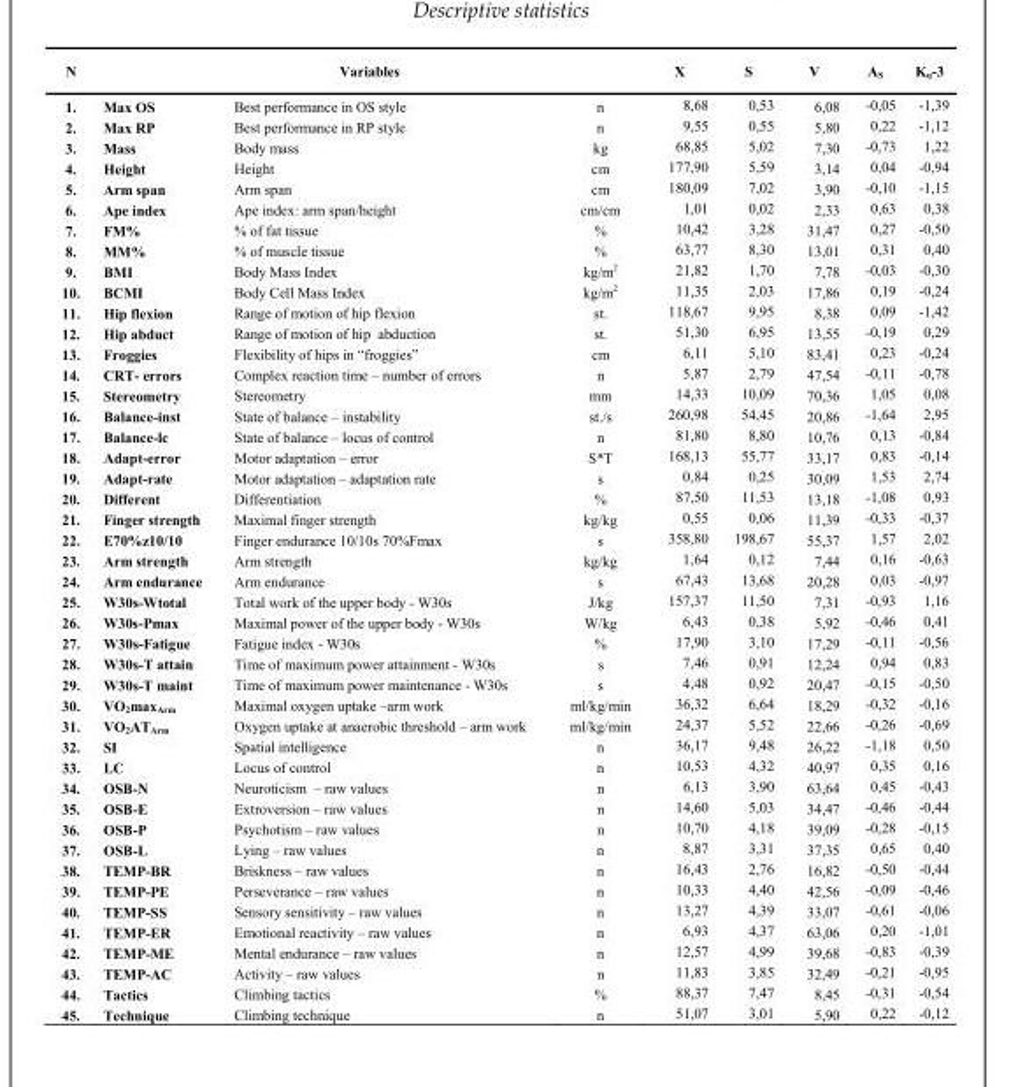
<table><thead><tr><td>N</td><td></td><td>Variables</td><td></td><td>X</td><td>S</td><td>V</td><td>A<sub>S</sub></td><td>K<sub>u</sub>-3</td></tr></thead><tbody><tr><td>1.</td><td>Max OS</td><td>Best performance in OS style</td><td>n</td><td>8,68</td><td>0,53</td><td>6,08</td><td>-0,05</td><td>-1,39</td></tr><tr><td>2.</td><td>Max RP</td><td>Best performance in RP style</td><td>n</td><td>9,55</td><td>0,55</td><td>5,80</td><td>0,22</td><td>-1,12</td></tr><tr><td>3.</td><td>Mass</td><td>Body mass</td><td>kg</td><td>68,85</td><td>5,02</td><td>7,30</td><td>-0,73</td><td>1,22</td></tr><tr><td>4.</td><td>Height</td><td>Height</td><td>cm</td><td>177,90</td><td>5,59</td><td>3,14</td><td>0,04</td><td>-0,94</td></tr><tr><td>5.</td><td>Arm span</td><td>Arm span</td><td>cm</td><td>180,09</td><td>7,02</td><td>3,90</td><td>-0,10</td><td>-1,15</td></tr><tr><td>6.</td><td>Ape index</td><td>Ape index: arm span/height</td><td>cm/cm</td><td>1,01</td><td>0,02</td><td>2,33</td><td>0,63</td><td>0,38</td></tr><tr><td>7.</td><td>FM%</td><td>% of fat tissue</td><td>%</td><td>10,42</td><td>3,28</td><td>31,47</td><td>0,27</td><td>-0,50</td></tr><tr><td>8.</td><td>MM%</td><td>% of muscle tissue</td><td>%</td><td>63,77</td><td>8,30</td><td>13,01</td><td>0,31</td><td>0,40</td></tr><tr><td>9.</td><td>BMI</td><td>Body Mass Index</td><td>kg/m<sup>2</sup></td><td>21,82</td><td>1,70</td><td>7,78</td><td>-0,03</td><td>-0,30</td></tr><tr><td>10.</td><td>BCMI</td><td>Body Cell Mass Index</td><td>kg/m<sup>2</sup></td><td>11,35</td><td>2,03</td><td>17,86</td><td>0,19</td><td>-0,24</td></tr><tr><td>11.</td><td>Hip flexion</td><td>Range of motion of hip flexion</td><td>st.</td><td>118,67</td><td>9,95</td><td>8,38</td><td>0,09</td><td>-1,42</td></tr><tr><td>12.</td><td>Hip abduct</td><td>Range of motion of hip abduction</td><td>st.</td><td>51,30</td><td>6,95</td><td>13,55</td><td>-0,19</td><td>0,29</td></tr><tr><td>13.</td><td>Froggies</td><td>Flexibility of hips in “froggies”</td><td>cm</td><td>6,11</td><td>5,10</td><td>83,41</td><td>0,23</td><td>-0,24</td></tr><tr><td>14.</td><td>CRT- errors</td><td>Complex reaction time – number of errors</td><td>n</td><td>5,87</td><td>2,79</td><td>47,54</td><td>-0,11</td><td>-0,78</td></tr><tr><td>15.</td><td>Stereometry</td><td>Stereometry</td><td>mm</td><td>14,33</td><td>10,09</td><td>70,36</td><td>1,05</td><td>0,08</td></tr><tr><td>16.</td><td>Balance-inst</td><td>State of balance – instability</td><td>st./s</td><td>260,98</td><td>54,45</td><td>20,86</td><td>-1,64</td><td>2,95</td></tr><tr><td>17.</td><td>Balance-lc</td><td>State of balance – locus of control</td><td>n</td><td>81,80</td><td>8,80</td><td>10,76</td><td>0,13</td><td>-0,84</td></tr><tr><td>18.</td><td>Adapt-error</td><td>Motor adaptation – error</td><td>S*T</td><td>168,13</td><td>55,77</td><td>33,17</td><td>0,83</td><td>-0,14</td></tr><tr><td>19.</td><td>Adapt-rate</td><td>Motor adaptation – adaptation rate</td><td>s</td><td>0,84</td><td>0,25</td><td>30,09</td><td>1,53</td><td>2,74</td></tr><tr><td>20.</td><td>Different</td><td>Differentiation</td><td>%</td><td>87,50</td><td>11,53</td><td>13,18</td><td>-1,08</td><td>0,93</td></tr><tr><td>21.</td><td>Finger strength</td><td>Maximal finger strength</td><td>kg/kg</td><td>0,55</td><td>0,06</td><td>11,39</td><td>-0,33</td><td>-0,37</td></tr><tr><td>22.</td><td>E70%z10/10</td><td>Finger endurance 10/10s 70%Fmax</td><td>s</td><td>358,80</td><td>198,67</td><td>55,37</td><td>1,57</td><td>2,02</td></tr><tr><td>23.</td><td>Arm strength</td><td>Arm strength</td><td>kg/kg</td><td>1,64</td><td>0,12</td><td>7,44</td><td>0,16</td><td>-0,63</td></tr><tr><td>24.</td><td>Arm endurance</td><td>Arm endurance</td><td>s</td><td>67,43</td><td>13,68</td><td>20,28</td><td>0,03</td><td>-0,97</td></tr><tr><td>25.</td><td>W30s-Wtotal</td><td>Total work of the upper body - W30s</td><td>J/kg</td><td>157,37</td><td>11,50</td><td>7,31</td><td>-0,93</td><td>1,16</td></tr><tr><td>26.</td><td>W30s-Pmax</td><td>Maximal power of the upper body - W30s</td><td>W/kg</td><td>6,43</td><td>0,38</td><td>5,92</td><td>-0,46</td><td>0,41</td></tr><tr><td>27.</td><td>W30s-Fatigue</td><td>Fatigue index - W30s</td><td>%</td><td>17,90</td><td>3,10</td><td>17,29</td><td>-0,11</td><td>-0,56</td></tr><tr><td>28.</td><td>W30s-T attain</td><td>Time of maximum power attainment - W30s</td><td>s</td><td>7,46</td><td>0,91</td><td>12,24</td><td>0,94</td><td>0,83</td></tr><tr><td>29.</td><td>W30s-T maint</td><td>Time of maximum power maintenance - W30s</td><td>s</td><td>4,48</td><td>0,92</td><td>20,47</td><td>-0,15</td><td>-0,50</td></tr><tr><td>30.</td><td>VO<sub>2</sub>max<sub>Arm</sub></td><td>Maximal oxygen uptake –arm work</td><td>ml/kg/min</td><td>36,32</td><td>6,64</td><td>18,29</td><td>-0,32</td><td>-0,16</td></tr><tr><td>31.</td><td>VO<sub>2</sub>AT<sub>Arm</sub></td><td>Oxygen uptake at anaerobic threshold – arm work</td><td>ml/kg/min</td><td>24,37</td><td>5,52</td><td>22,66</td><td>-0,26</td><td>-0,69</td></tr><tr><td>32.</td><td>SI</td><td>Spatial intelligence</td><td>n</td><td>36,17</td><td>9,48</td><td>26,22</td><td>-1,18</td><td>0,50</td></tr><tr><td>33.</td><td>LC</td><td>Locus of control</td><td>n</td><td>10,53</td><td>4,32</td><td>40,97</td><td>0,35</td><td>0,16</td></tr><tr><td>34.</td><td>OSB-N</td><td>Neuroticism – raw values</td><td>n</td><td>6,13</td><td>3,90</td><td>63,64</td><td>0,45</td><td>-0,43</td></tr><tr><td>35.</td><td>OSB-E</td><td>Extroversion – raw values</td><td>n</td><td>14,60</td><td>5,03</td><td>34,47</td><td>-0,46</td><td>-0,44</td></tr><tr><td>36.</td><td>OSB-P</td><td>Psychotism – raw values</td><td>n</td><td>10,70</td><td>4,18</td><td>39,09</td><td>-0,28</td><td>-0,15</td></tr><tr><td>37.</td><td>OSB-L</td><td>Lying – raw values</td><td>n</td><td>8,87</td><td>3,31</td><td>37,35</td><td>0,65</td><td>0,40</td></tr><tr><td>38.</td><td>TEMP-BR</td><td>Briskness – raw values</td><td>n</td><td>16,43</td><td>2,76</td><td>16,82</td><td>-0,50</td><td>-0,44</td></tr><tr><td>39.</td><td>TEMP-PE</td><td>Perseverance – raw values</td><td>n</td><td>10,33</td><td>4,40</td><td>42,56</td><td>-0,09</td><td>-0,46</td></tr><tr><td>40.</td><td>TEMP-SS</td><td>Sensory sensitivity – raw values</td><td>n</td><td>13,27</td><td>4,39</td><td>33,07</td><td>-0,61</td><td>-0,06</td></tr><tr><td>41.</td><td>TEMP-ER</td><td>Emotional reactivity – raw values</td><td>n</td><td>6,93</td><td>4,37</td><td>63,06</td><td>0,20</td><td>-1,01</td></tr><tr><td>42.</td><td>TEMP-ME</td><td>Mental endurance – raw values</td><td>n</td><td>12,57</td><td>4,99</td><td>39,68</td><td>-0,83</td><td>-0,39</td></tr><tr><td>43.</td><td>TEMP-AC</td><td>Activity – raw values</td><td>n</td><td>11,83</td><td>3,85</td><td>32,49</td><td>-0,21</td><td>-0,95</td></tr><tr><td>44.</td><td>Tactics</td><td>Climbing tactics</td><td>%</td><td>88,37</td><td>7,47</td><td>8,45</td><td>-0,31</td><td>-0,54</td></tr><tr><td>45.</td><td>Technique</td><td>Climbing technique</td><td>n</td><td>51,07</td><td>3,01</td><td>5,90</td><td>0,22</td><td>-0,12</td></tr></tbody></table>